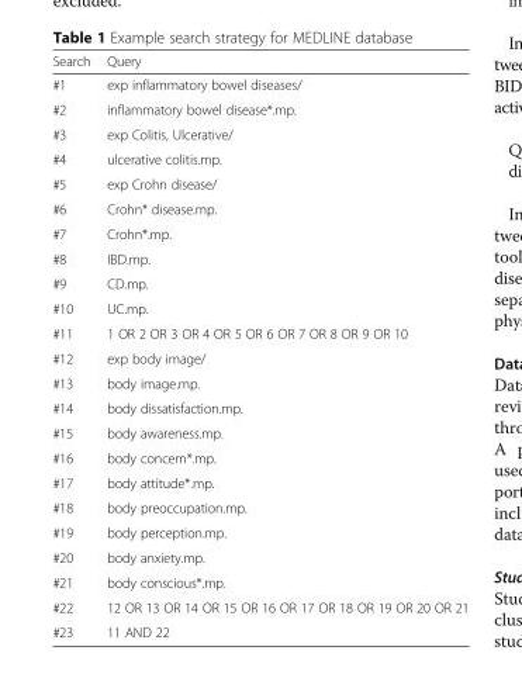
<table><thead><tr><td>Search</td><td>Query</td></tr></thead><tbody><tr><td>#1</td><td>exp inflammatory bowel diseases/</td></tr><tr><td>#2</td><td>inflammatory bowel disease*.mp.</td></tr><tr><td>#3</td><td>exp Colitis, Ulcerative/</td></tr><tr><td>#4</td><td>ulcerative colitis.mp.</td></tr><tr><td>#5</td><td>exp Crohn disease/</td></tr><tr><td>#6</td><td>Crohn* disease.mp.</td></tr><tr><td>#7</td><td>Crohn*.mp.</td></tr><tr><td>#8</td><td>IBD.mp.</td></tr><tr><td>#9</td><td>CD.mp.</td></tr><tr><td>#10</td><td>UC.mp.</td></tr><tr><td>#11</td><td>1 OR 2 OR 3 OR 4 OR 5 OR 6 OR 7 OR 8 OR 9 OR 10</td></tr><tr><td>#12</td><td>exp body image/</td></tr><tr><td>#13</td><td>body image.mp.</td></tr><tr><td>#14</td><td>body dissatisfaction.mp.</td></tr><tr><td>#15</td><td>body awareness.mp.</td></tr><tr><td>#16</td><td>body concern*.mp.</td></tr><tr><td>#17</td><td>body attitude*.mp.</td></tr><tr><td>#18</td><td>body preoccupation.mp.</td></tr><tr><td>#19</td><td>body perception.mp.</td></tr><tr><td>#20</td><td>body anxiety.mp.</td></tr><tr><td>#21</td><td>body conscious*.mp.</td></tr><tr><td>#22</td><td>12 OR 13 OR 14 OR 15 OR 16 OR 17 OR 18 OR 19 OR 20 OR 21</td></tr><tr><td>#23</td><td>11 AND 22</td></tr></tbody></table>